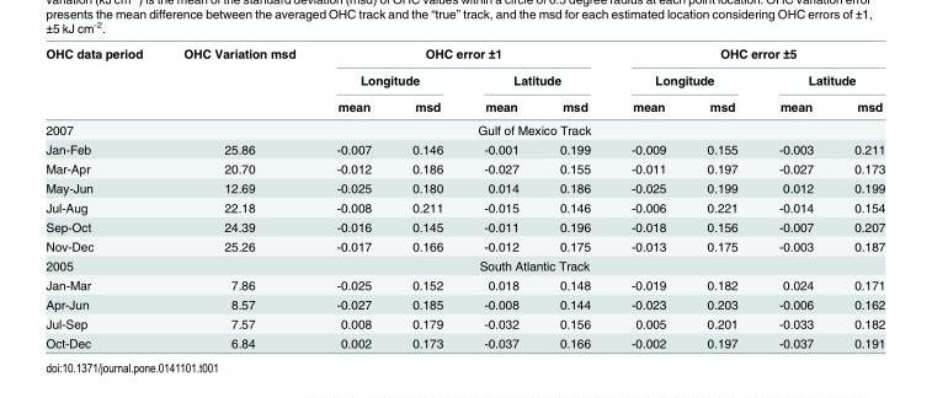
<table><thead><tr><td rowspan="3">OHC data period</td><td rowspan="3">OHC Variation msd</td><td colspan="4">OHC error ±1</td><td colspan="4">OHC error ±5</td></tr><tr><td colspan="2">Longitude</td><td colspan="2">Latitude</td><td colspan="2">Longitude</td><td colspan="2">Latitude</td></tr><tr><td>mean</td><td>msd</td><td>mean</td><td>msd</td><td>mean</td><td>msd</td><td>mean</td><td>msd</td></tr></thead><tbody><tr><td>2007</td><td colspan="9">Gulf of Mexico Track</td></tr><tr><td>Jan-Feb</td><td>25.86</td><td>-0.007</td><td>0.146</td><td>-0.001</td><td>0.199</td><td>-0.009</td><td>0.155</td><td>-0.003</td><td>0.211</td></tr><tr><td>Mar-Apr</td><td>20.70</td><td>-0.012</td><td>0.186</td><td>-0.027</td><td>0.155</td><td>-0.011</td><td>0.197</td><td>-0.027</td><td>0.173</td></tr><tr><td>May-Jun</td><td>12.69</td><td>-0.025</td><td>0.180</td><td>0.014</td><td>0.186</td><td>-0.025</td><td>0.199</td><td>0.012</td><td>0.199</td></tr><tr><td>Jul-Aug</td><td>22.18</td><td>-0.008</td><td>0.211</td><td>-0.015</td><td>0.146</td><td>-0.006</td><td>0.221</td><td>-0.014</td><td>0.154</td></tr><tr><td>Sep-Oct</td><td>24.39</td><td>-0.016</td><td>0.145</td><td>-0.011</td><td>0.196</td><td>-0.018</td><td>0.156</td><td>-0.007</td><td>0.207</td></tr><tr><td>Nov-Dec</td><td>25.26</td><td>-0.017</td><td>0.166</td><td>-0.012</td><td>0.175</td><td>-0.013</td><td>0.175</td><td>-0.003</td><td>0.187</td></tr><tr><td>2005</td><td colspan="9">South Atlantic Track</td></tr><tr><td>Jan-Mar</td><td>7.86</td><td>-0.025</td><td>0.152</td><td>0.018</td><td>0.148</td><td>-0.019</td><td>0.182</td><td>0.024</td><td>0.171</td></tr><tr><td>Apr-Jun</td><td>8.57</td><td>-0.027</td><td>0.185</td><td>-0.008</td><td>0.144</td><td>-0.023</td><td>0.203</td><td>-0.006</td><td>0.162</td></tr><tr><td>Jul-Sep</td><td>7.57</td><td>0.008</td><td>0.179</td><td>-0.032</td><td>0.156</td><td>0.005</td><td>0.201</td><td>-0.033</td><td>0.182</td></tr><tr><td>Oct-Dec</td><td>6.84</td><td>0.002</td><td>0.173</td><td>-0.037</td><td>0.166</td><td>-0.002</td><td>0.197</td><td>-0.037</td><td>0.191</td></tr></tbody></table>